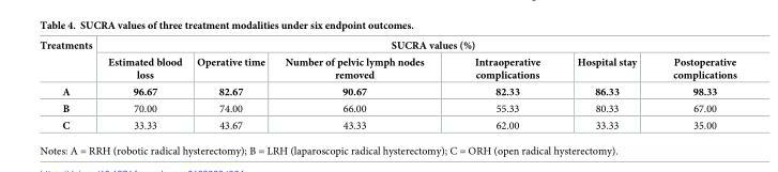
<table><thead><tr><td rowspan="2">Treatments</td><td colspan="6">SUCRA values (%)</td></tr><tr><td>Estimated blood loss</td><td>Operative time</td><td>Number of pelvic lymph nodes removed</td><td>Intraoperative complications</td><td>Hospital stay</td><td>Postoperative complications</td></tr></thead><tbody><tr><td>A</td><td>96.67</td><td>82.67</td><td>90.67</td><td>82.33</td><td>86.33</td><td>98.33</td></tr><tr><td>B</td><td>70.00</td><td>74.00</td><td>66.00</td><td>55.33</td><td>80.33</td><td>67.00</td></tr><tr><td>C</td><td>33.33</td><td>43.67</td><td>43.33</td><td>62.00</td><td>33.33</td><td>35.00</td></tr></tbody></table>